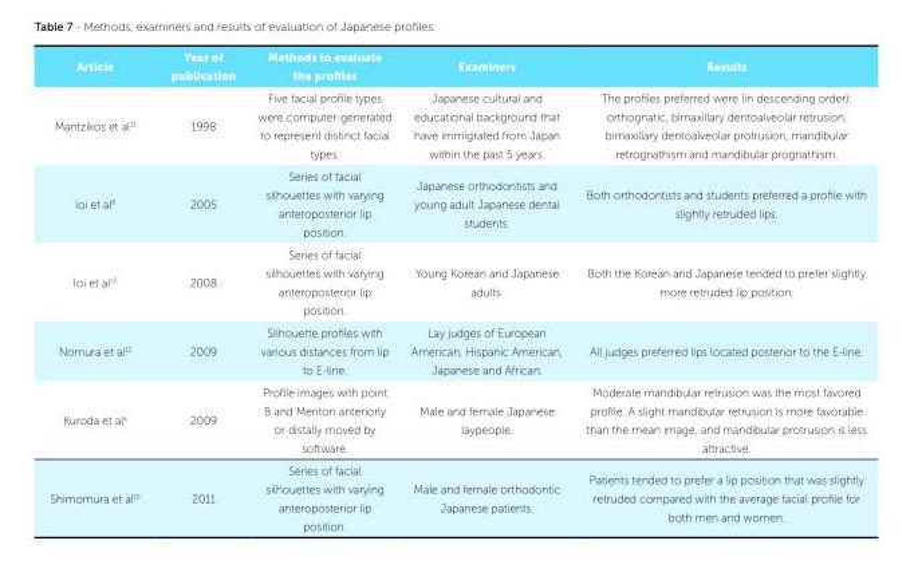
<table><thead><tr><td>Article</td><td>Year of publication</td><td>Methods to evaluate the profiles</td><td>Examiners</td><td>Results</td></tr></thead><tbody><tr><td>Mantzikos et al<sup>11</sup></td><td>1998</td><td>Five facial profile types were computer-generated to represent distinct facial types.</td><td>Japanese cultural and educational background that have immigrated from Japan within the past 5 years.</td><td>The profiles preferred were (in descending order): orthognatic, bimaxillary dentoalveolar retrusion, bimaxillary dentoalveolar protrusion, mandibular retrognathism and mandibular prognathism.</td></tr><tr><td>Ioi et al<sup>8</sup></td><td>2005</td><td>Series of facial silhouettes with varying anteroposterior lip position.</td><td>Japanese orthodontists and young adult Japanese dental students.</td><td>Both orthodontists and students preferred a profile with slightly retruded lips.</td></tr><tr><td>Ioi et al<sup>10</sup></td><td>2008</td><td>Series of facial silhouettes with varying anteroposterior lip position.</td><td>Young Korean and Japanese adults.</td><td>Both the Korean and Japanese tended to prefer slightly more retruded lip position.</td></tr><tr><td>Nomura et al<sup>12</sup></td><td>2009</td><td>Silhouette profiles with various distances from lip to E-line.</td><td>Lay judges of European American, Hispanic American, Japanese and African.</td><td>All judges preferred lips located posterior to the E-line.</td></tr><tr><td>Kuroda et al<sup>6</sup></td><td>2009</td><td>Profile images with point B and Menton anteriorly or distally moved by software.</td><td>Male and female Japanese laypeople.</td><td>Moderate mandibular retrusion was the most favored profile. A slight mandibular retrusion is more favorable than the mean image, and mandibular protrusion is less attractive.</td></tr><tr><td>Shimomura et al<sup>16</sup></td><td>2011</td><td>Series of facial silhouettes with varying anteroposterior lip position.</td><td>Male and female orthodontic Japanese patients.</td><td>Patients tended to prefer a lip position that was slightly retruded compared with the average facial profile for both men and women.</td></tr></tbody></table>